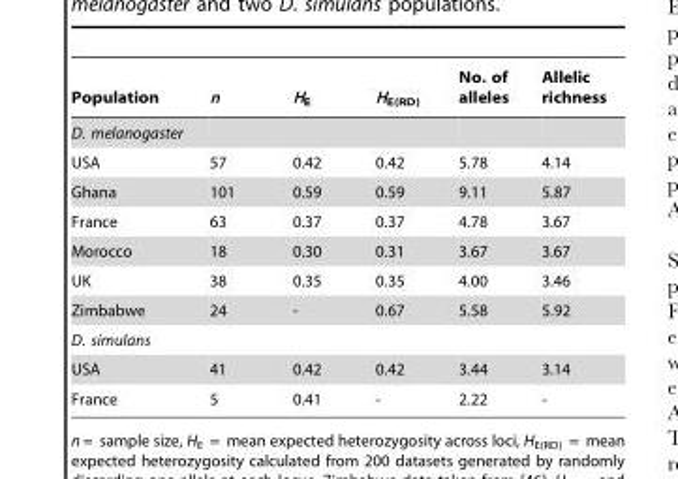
<table><thead><tr><td>Population</td><td>n</td><td>H<sub>E</sub></td><td>H<sub>E(RD)</sub></td><td>No. of alleles</td><td>Allelic richness</td></tr></thead><tbody><tr><td colspan="6">D. melanogaster</td></tr><tr><td>USA</td><td>57</td><td>0.42</td><td>0.42</td><td>5.78</td><td>4.14</td></tr><tr><td>Ghana</td><td>101</td><td>0.59</td><td>0.59</td><td>9.11</td><td>5.87</td></tr><tr><td>France</td><td>63</td><td>0.37</td><td>0.37</td><td>4.78</td><td>3.67</td></tr><tr><td>Morocco</td><td>18</td><td>0.30</td><td>0.31</td><td>3.67</td><td>3.67</td></tr><tr><td>UK</td><td>38</td><td>0.35</td><td>0.35</td><td>4.00</td><td>3.46</td></tr><tr><td>Zimbabwe</td><td>24</td><td>-</td><td>0.67</td><td>5.58</td><td>5.92</td></tr><tr><td colspan="6">D. simulans</td></tr><tr><td>USA</td><td>41</td><td>0.42</td><td>0.42</td><td>3.44</td><td>3.14</td></tr><tr><td>France</td><td>5</td><td>0.41</td><td>-</td><td>2.22</td><td>-</td></tr></tbody></table>